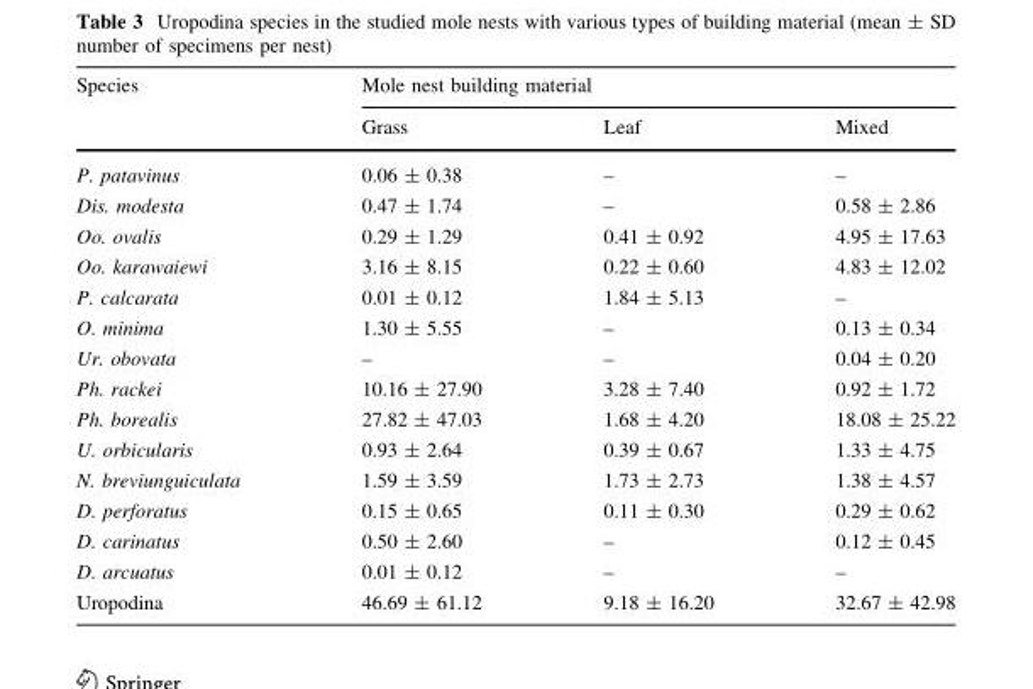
<table><thead><tr><td rowspan="2">Species</td><td colspan="3">Mole nest building material</td></tr><tr><td>Grass</td><td>Leaf</td><td>Mixed</td></tr></thead><tbody><tr><td>P. patavinus</td><td>0.06 ± 0.38</td><td>–</td><td>–</td></tr><tr><td>Dis. modesta</td><td>0.47 ± 1.74</td><td>–</td><td>0.58 ± 2.86</td></tr><tr><td>Oo. ovalis</td><td>0.29 ± 1.29</td><td>0.41 ± 0.92</td><td>4.95 ± 17.63</td></tr><tr><td>Oo. karawaiewi</td><td>3.16 ± 8.15</td><td>0.22 ± 0.60</td><td>4.83 ± 12.02</td></tr><tr><td>P. calcarata</td><td>0.01 ± 0.12</td><td>1.84 ± 5.13</td><td>–</td></tr><tr><td>O. minima</td><td>1.30 ± 5.55</td><td>–</td><td>0.13 ± 0.34</td></tr><tr><td>Ur. obovata</td><td>–</td><td>–</td><td>0.04 ± 0.20</td></tr><tr><td>Ph. rackei</td><td>10.16 ± 27.90</td><td>3.28 ± 7.40</td><td>0.92 ± 1.72</td></tr><tr><td>Ph. borealis</td><td>27.82 ± 47.03</td><td>1.68 ± 4.20</td><td>18.08 ± 25.22</td></tr><tr><td>U. orbicularis</td><td>0.93 ± 2.64</td><td>0.39 ± 0.67</td><td>1.33 ± 4.75</td></tr><tr><td>N. breviunguiculata</td><td>1.59 ± 3.59</td><td>1.73 ± 2.73</td><td>1.38 ± 4.57</td></tr><tr><td>D. perforatus</td><td>0.15 ± 0.65</td><td>0.11 ± 0.30</td><td>0.29 ± 0.62</td></tr><tr><td>D. carinatus</td><td>0.50 ± 2.60</td><td>–</td><td>0.12 ± 0.45</td></tr><tr><td>D. arcuatus</td><td>0.01 ± 0.12</td><td>–</td><td>–</td></tr><tr><td>Uropodina</td><td>46.69 ± 61.12</td><td>9.18 ± 16.20</td><td>32.67 ± 42.98</td></tr></tbody></table>